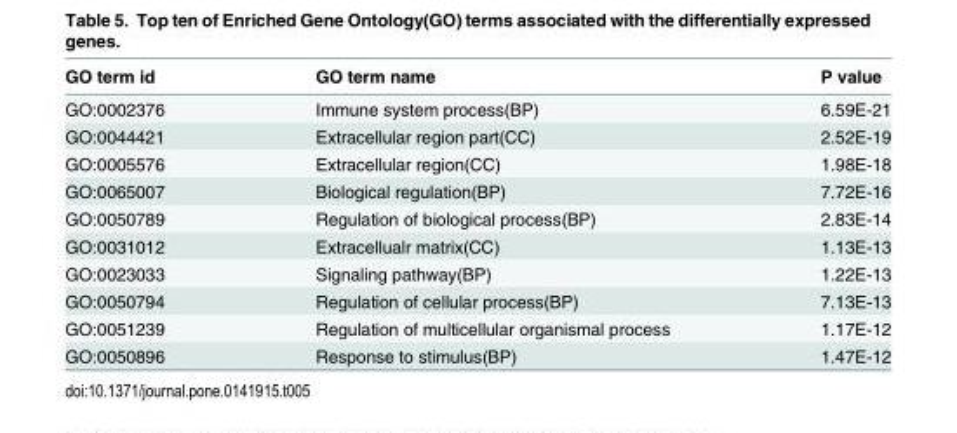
<table><thead><tr><td>GO term id</td><td>GO term name</td><td>P value</td></tr></thead><tbody><tr><td>GO:0002376</td><td>Immune system process(BP)</td><td>6.59E-21</td></tr><tr><td>GO:0044421</td><td>Extracellular region part(CC)</td><td>2.52E-19</td></tr><tr><td>GO:0005576</td><td>Extracellular region(CC)</td><td>1.98E-18</td></tr><tr><td>GO:0065007</td><td>Biological regulation(BP)</td><td>7.72E-16</td></tr><tr><td>GO:0050789</td><td>Regulation of biological process(BP)</td><td>2.83E-14</td></tr><tr><td>GO:0031012</td><td>Extracellualr matrix(CC)</td><td>1.13E-13</td></tr><tr><td>GO:0023033</td><td>Signaling pathway(BP)</td><td>1.22E-13</td></tr><tr><td>GO:0050794</td><td>Regulation of cellular process(BP)</td><td>7.13E-13</td></tr><tr><td>GO:0051239</td><td>Regulation of multicellular organismal process</td><td>1.17E-12</td></tr><tr><td>GO:0050896</td><td>Response to stimulus(BP)</td><td>1.47E-12</td></tr></tbody></table>